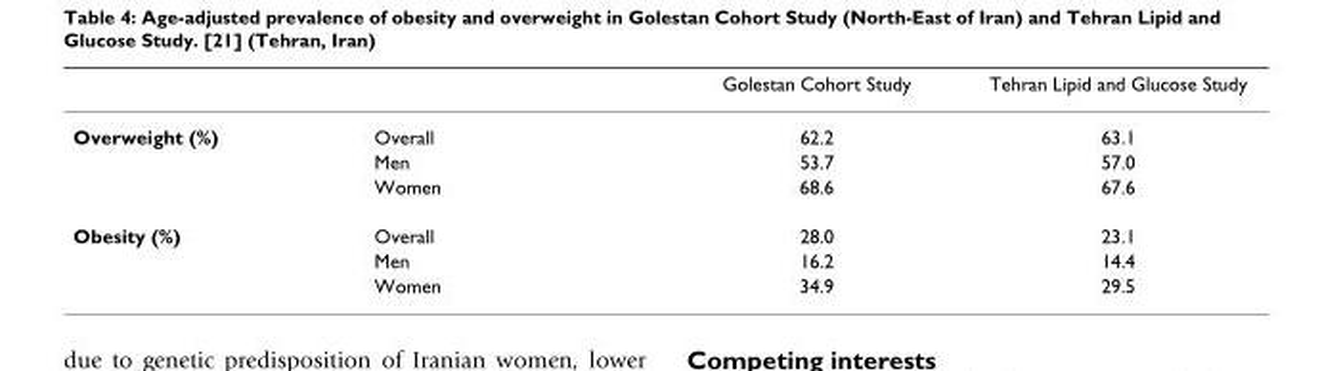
<table><thead><tr><td></td><td></td><td>Golestan Cohort Study</td><td>Tehran Lipid and Glucose Study</td></tr></thead><tbody><tr><td rowspan="3">Overweight (%)</td><td>Overall</td><td>62.2</td><td>63.1</td></tr><tr><td>Men</td><td>53.7</td><td>57.0</td></tr><tr><td>Women</td><td>68.6</td><td>67.6</td></tr><tr><td rowspan="3">Obesity (%)</td><td>Overall</td><td>28.0</td><td>23.1</td></tr><tr><td>Men</td><td>16.2</td><td>14.4</td></tr><tr><td>Women</td><td>34.9</td><td>29.5</td></tr></tbody></table>